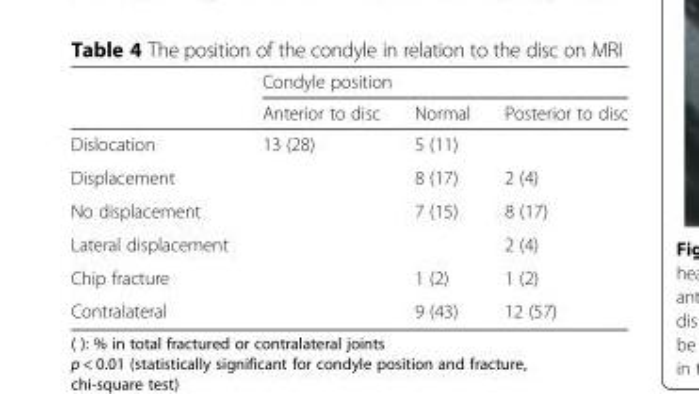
<table><thead><tr><td rowspan="2"></td><td colspan="3">Condyle position</td></tr><tr><td>Anterior to disc</td><td>Normal</td><td>Posterior to disc</td></tr></thead><tbody><tr><td>Dislocation</td><td>13 (28)</td><td>5 (11)</td><td></td></tr><tr><td>Displacement</td><td></td><td>8 (17)</td><td>2 (4)</td></tr><tr><td>No displacement</td><td></td><td>7 (15)</td><td>8 (17)</td></tr><tr><td>Lateral displacement</td><td></td><td></td><td>2 (4)</td></tr><tr><td>Chip fracture</td><td></td><td>1 (2)</td><td>1 (2)</td></tr><tr><td>Contralateral</td><td></td><td>9 (43)</td><td>12 (57)</td></tr></tbody></table>